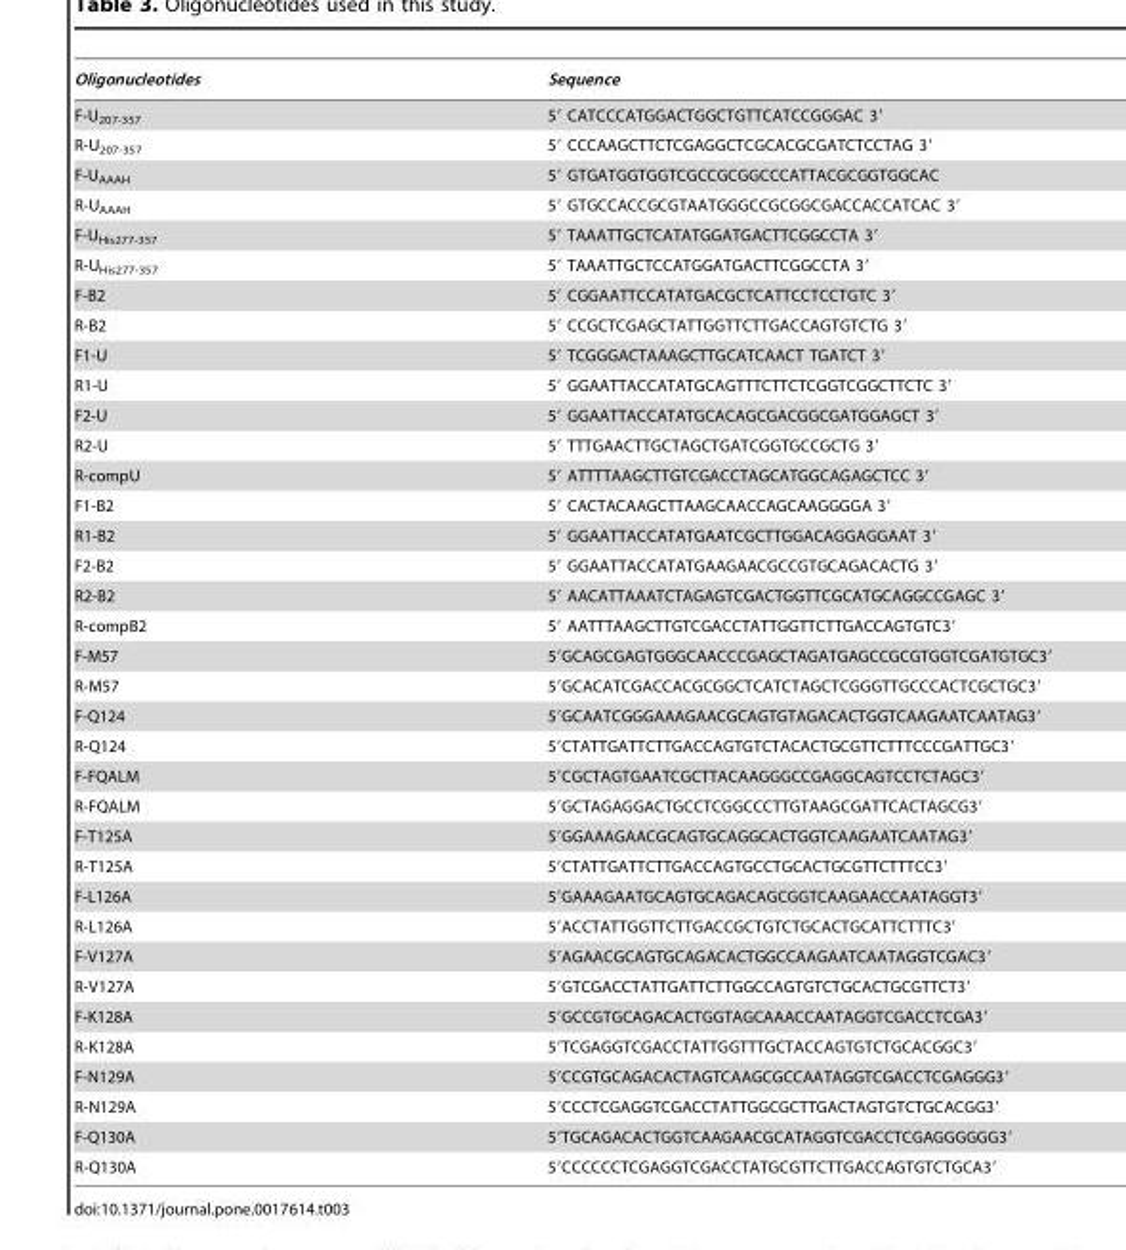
<table><thead><tr><td>Oligonucleotides</td><td>Sequence</td></tr></thead><tbody><tr><td>F-U<sub>207-357</sub></td><td>5′ CATCCCATGGACTGGCTGTTCATCCGGGAC 3′</td></tr><tr><td>R-U<sub>207-357</sub></td><td>5′ CCCAAGCTTCTCGAGGCTCGCACGCGATCTCCTAG 3′</td></tr><tr><td>F-U<sub>AAAH</sub></td><td>5′ GTGATGGTGGTCGCCGCGGCCCATTACGCGGTGGCAC</td></tr><tr><td>R-U<sub>AAAH</sub></td><td>5′ GTGCCACCGCGTAATGGGCCGCGGCGACCACCATCAC 3′</td></tr><tr><td>F-U<sub>His277-357</sub></td><td>5′ TAAATTGCTCATATGGATGACTTCGGCCTA 3′</td></tr><tr><td>R-U<sub>His277-357</sub></td><td>5′ TAAATTGCTCCATGGATGACTTCGGCCTA 3′</td></tr><tr><td>F-B2</td><td>5′ CGGAATTCCATATGACGCTCATTCCTCCTGTC 3′</td></tr><tr><td>R-B2</td><td>5′ CCGCTCGAGCTATTGGTTCTTGACCAGTGTCTG 3′</td></tr><tr><td>F1-U</td><td>5′ TCGGGACTAAAGCTTGCATCAACT TGATCT 3′</td></tr><tr><td>R1-U</td><td>5′ GGAATTACCATATGCAGTTTCTTCTCGGTCGGCTTCTC 3′</td></tr><tr><td>F2-U</td><td>5′ GGAATTACCATATGCACAGCGACGGCGATGGAGCT 3′</td></tr><tr><td>R2-U</td><td>5′ TTTGAACTTGCTAGCTGATCGGTGCCGCTG 3′</td></tr><tr><td>R-compU</td><td>5′ ATTTTAAGCTTGTCGACCTAGCATGGCAGAGCTCC 3′</td></tr><tr><td>F1-B2</td><td>5′ CACTACAAGCTTAAGCAACCAGCAAGGGGA 3′</td></tr><tr><td>R1-B2</td><td>5′ GGAATTACCATATGAATCGCTTGGACAGGAGGAAT 3′</td></tr><tr><td>F2-B2</td><td>5′ GGAATTACCATATGAAGAACGCCGTGCAGACACTG 3′</td></tr><tr><td>R2-B2</td><td>5′ AACATTAAATCTAGAGTCGACTGGTTCGCATGCAGGCCGAGC 3′</td></tr><tr><td>R-compB2</td><td>5′ AATTTAAGCTTGTCGACCTATTGGTTCTTGACCAGTGTC3′</td></tr><tr><td>F-M57</td><td>5′GCAGCGAGTGGGCAACCCGAGCTAGATGAGCCGCGTGGTCGATGTGC3′</td></tr><tr><td>R-M57</td><td>5′GCACATCGACCACGCGGCTCATCTAGCTCGGGTTGCCCACTCGCTGC3′</td></tr><tr><td>F-Q124</td><td>5′GCAATCGGGAAAGAACGCAGTGTAGACACTGGTCAAGAATCAATAG3′</td></tr><tr><td>R-Q124</td><td>5′CTATTGATTCTTGACCAGTGTCTACACTGCGTTCTTTCCCGATTGC3′</td></tr><tr><td>F-FQALM</td><td>5′CGCTAGTGAATCGCTTACAAGGGCCGAGGCAGTCCTCTAGC3′</td></tr><tr><td>R-FQALM</td><td>5′GCTAGAGGACTGCCTCGGCCCTTGTAAGCGATTCACTAGCG3′</td></tr><tr><td>F-T125A</td><td>5′GGAAAGAACGCAGTGCAGGCACTGGTCAAGAATCAATAG3′</td></tr><tr><td>R-T125A</td><td>5′CTATTGATTCTTGACCAGTGCCTGCACTGCGTTCTTTCC3′</td></tr><tr><td>F-L126A</td><td>5′GAAAGAATGCAGTGCAGACAGCGGTCAAGAACCAATAGGT3′</td></tr><tr><td>R-L126A</td><td>5′ACCTATTGGTTCTTGACCGCTGTCTGCACTGCATTCTTTC3′</td></tr><tr><td>F-V127A</td><td>5′AGAACGCAGTGCAGACACTGGCCAAGAATCAATAGGTCGAC3′</td></tr><tr><td>R-V127A</td><td>5′GTCGACCTATTGATTCTTGGCCAGTGTCTGCACTGCGTTCT3′</td></tr><tr><td>F-K128A</td><td>5′GCCGTGCAGACACTGGTAGCAAACCAATAGGTCGACCTCGA3′</td></tr><tr><td>R-K128A</td><td>5′TCGAGGTCGACCTATTGGTTTGCTACCAGTGTCTGCACGGC3′</td></tr><tr><td>F-N129A</td><td>5′CCGTGCAGACACTAGTCAAGCGCCAATAGGTCGACCTCGAGGG3′</td></tr><tr><td>R-N129A</td><td>5′CCCTCGAGGTCGACCTATTGGCGCTTGACTAGTGTCTGCACGG3′</td></tr><tr><td>F-Q130A</td><td>5′TGCAGACACTGGTCAAGAACGCATAGGTCGACCTCGAGGGGGG3′</td></tr><tr><td>R-Q130A</td><td>5′CCCCCCTCGAGGTCGACCTATGCGTTCTTGACCAGTGTCTGCA3′</td></tr></tbody></table>